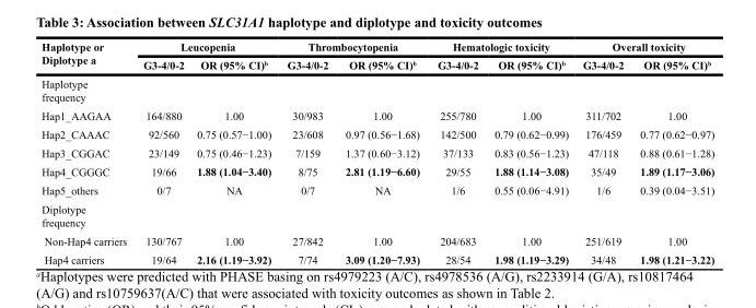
<table><thead><tr><td rowspan="2">Haplotype or Diplotype a</td><td colspan="2">Leucopenia</td><td colspan="2">Thrombocytopenia</td><td colspan="2">Hematologic toxicity</td><td colspan="2">Overall toxicity</td></tr><tr><td>G3-4/0-2</td><td>OR (95% CI)<sup>b</sup></td><td>G3-4/0-2</td><td>OR (95% CI)<sup>b</sup></td><td>G3-4/0-2</td><td>OR (95% CI)<sup>b</sup></td><td>G3-4/0-2</td><td>OR (95% CI)<sup>b</sup></td></tr></thead><tbody><tr><td colspan="9">Haplotype frequency</td></tr><tr><td>Hap1_AAGAA</td><td>164/880</td><td>1.00</td><td>30/983</td><td>1.00</td><td>255/780</td><td>1.00</td><td>311/702</td><td>1.00</td></tr><tr><td>Hap2_CAAAC</td><td>92/560</td><td>0.75 (0.57−1.00)</td><td>23/608</td><td>0.97 (0.56−1.68)</td><td>142/500</td><td>0.79 (0.62−0.99)</td><td>176/459</td><td>0.77 (0.62−0.97)</td></tr><tr><td>Hap3_CGGAC</td><td>23/149</td><td>0.75 (0.46−1.23)</td><td>7/159</td><td>1.37 (0.60−3.12)</td><td>37/133</td><td>0.83 (0.56−1.23)</td><td>47/118</td><td>0.88 (0.61−1.28)</td></tr><tr><td>Hap4_CGGGC</td><td>19/66</td><td>1.88 (1.04−3.40)</td><td>8/75</td><td>2.81 (1.19−6.60)</td><td>29/55</td><td>1.88 (1.14−3.08)</td><td>35/49</td><td>1.89 (1.17−3.06)</td></tr><tr><td>Hap5_others</td><td>0/7</td><td>NA</td><td>0/7</td><td>NA</td><td>1/6</td><td>0.55 (0.06−4.91)</td><td>1/6</td><td>0.39 (0.04−3.51)</td></tr><tr><td colspan="9">Diplotype frequency</td></tr><tr><td>Non-Hap4 carriers</td><td>130/767</td><td>1.00</td><td>27/842</td><td>1.00</td><td>204/683</td><td>1.00</td><td>251/619</td><td>1.00</td></tr><tr><td>Hap4 carriers</td><td>19/64</td><td>2.16 (1.19−3.92)</td><td>7/74</td><td>3.09 (1.20−7.93)</td><td>28/54</td><td>1.98 (1.19−3.29)</td><td>34/48</td><td>1.98 (1.21−3.22)</td></tr></tbody></table>